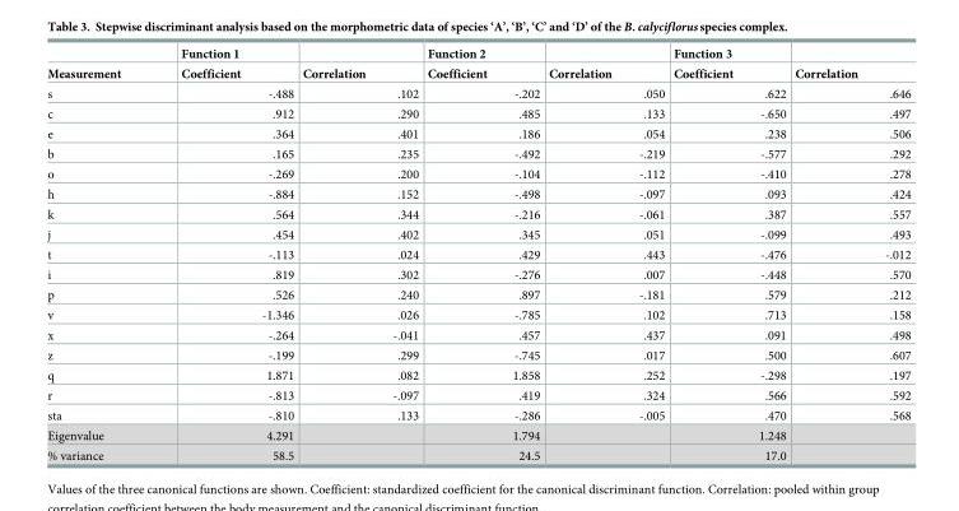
<table><thead><tr><td rowspan="2">Measurement</td><td rowspan="2">Function 1 Coefficient</td><td rowspan="2">Correlation</td><td rowspan="2">Function 2 Coefficient</td><td rowspan="2">Correlation</td><td rowspan="2">Function 3 Coefficient</td><td rowspan="2">Correlation</td></tr><tr></tr></thead><tbody><tr><td>s</td><td>-.488</td><td>.102</td><td>-.202</td><td>.050</td><td>.622</td><td>.646</td></tr><tr><td>c</td><td>.912</td><td>.290</td><td>.485</td><td>.133</td><td>-.650</td><td>.497</td></tr><tr><td>e</td><td>.364</td><td>.401</td><td>.186</td><td>.054</td><td>.238</td><td>.506</td></tr><tr><td>b</td><td>.165</td><td>.235</td><td>-.492</td><td>-.219</td><td>-.577</td><td>.292</td></tr><tr><td>o</td><td>-.269</td><td>.200</td><td>-.104</td><td>-.112</td><td>-.410</td><td>.278</td></tr><tr><td>h</td><td>-.884</td><td>.152</td><td>-.498</td><td>-.097</td><td>.093</td><td>.424</td></tr><tr><td>k</td><td>.564</td><td>.344</td><td>-.216</td><td>-.061</td><td>.387</td><td>.557</td></tr><tr><td>j</td><td>.454</td><td>.402</td><td>.345</td><td>.051</td><td>-.099</td><td>.493</td></tr><tr><td>t</td><td>-.113</td><td>.024</td><td>.429</td><td>.443</td><td>-.476</td><td>-.012</td></tr><tr><td>i</td><td>.819</td><td>.302</td><td>-.276</td><td>.007</td><td>-.448</td><td>.570</td></tr><tr><td>p</td><td>.526</td><td>.240</td><td>.897</td><td>-.181</td><td>.579</td><td>.212</td></tr><tr><td>v</td><td>-1.346</td><td>.026</td><td>-.785</td><td>.102</td><td>.713</td><td>.158</td></tr><tr><td>x</td><td>-.264</td><td>-.041</td><td>.457</td><td>.437</td><td>.091</td><td>.498</td></tr><tr><td>z</td><td>-.199</td><td>.299</td><td>-.745</td><td>.017</td><td>.500</td><td>.607</td></tr><tr><td>q</td><td>1.871</td><td>.082</td><td>1.858</td><td>.252</td><td>-.298</td><td>.197</td></tr><tr><td>r</td><td>-.813</td><td>-.097</td><td>.419</td><td>.324</td><td>.566</td><td>.592</td></tr><tr><td>sta</td><td>-.810</td><td>.133</td><td>-.286</td><td>-.005</td><td>.470</td><td>.568</td></tr><tr><td>Eigenvalue</td><td>4.291</td><td></td><td>1.794</td><td></td><td>1.248</td><td></td></tr><tr><td>% variance</td><td>58.5</td><td></td><td>24.5</td><td></td><td>17.0</td><td></td></tr></tbody></table>